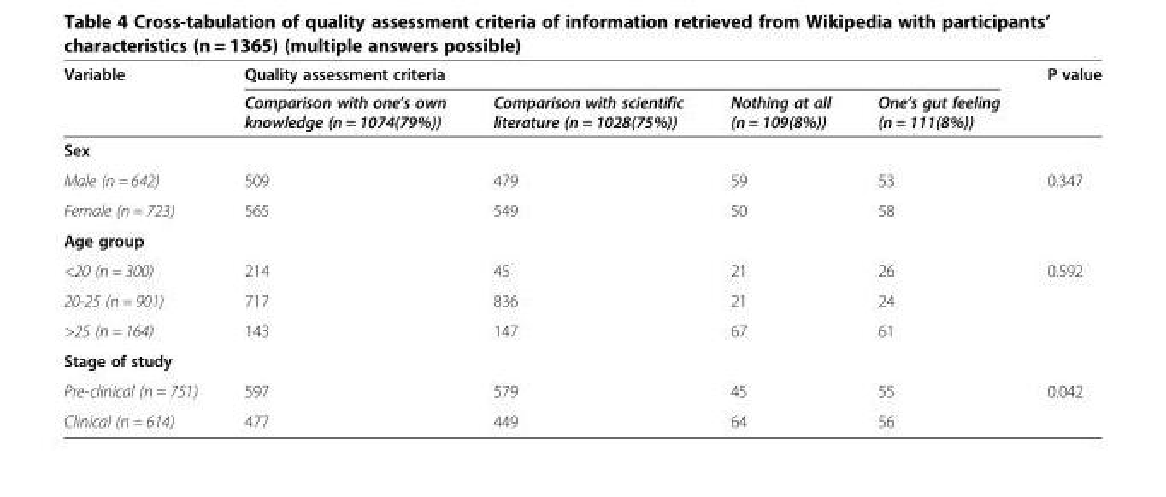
<table><thead><tr><td rowspan="2">Variable</td><td colspan="4">Quality assessment criteria</td><td rowspan="2">P value</td></tr><tr><td>Comparison with one’s own knowledge (n = 1074(79%))</td><td>Comparison with scientific literature (n = 1028(75%))</td><td>Nothing at all (n = 109(8%))</td><td>One’s gut feeling (n = 111(8%))</td></tr></thead><tbody><tr><td colspan="6">Sex</td></tr><tr><td>Male (n = 642)</td><td>509</td><td>479</td><td>59</td><td>53</td><td rowspan="2">0.347</td></tr><tr><td>Female (n = 723)</td><td>565</td><td>549</td><td>50</td><td>58</td></tr><tr><td colspan="6">Age group</td></tr><tr><td>&lt;20 (n = 300)</td><td>214</td><td>45</td><td>21</td><td>26</td><td rowspan="3">0.592</td></tr><tr><td>20-25 (n = 901)</td><td>717</td><td>836</td><td>21</td><td>24</td></tr><tr><td>&gt;25 (n = 164)</td><td>143</td><td>147</td><td>67</td><td>61</td></tr><tr><td colspan="6">Stage of study</td></tr><tr><td>Pre-clinical (n = 751)</td><td>597</td><td>579</td><td>45</td><td>55</td><td rowspan="2">0.042</td></tr><tr><td>Clinical (n = 614)</td><td>477</td><td>449</td><td>64</td><td>56</td></tr></tbody></table>